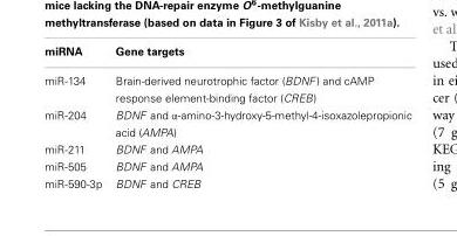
<table><thead><tr><td>miRNA</td><td>Gene targets</td></tr></thead><tbody><tr><td>miR-134</td><td>Brain-derived neurotrophic factor (BDNF) and cAMP response element-binding factor (CREB)</td></tr><tr><td>miR-204</td><td>BDNF and α-amino-3-hydroxy-5-methyl-4-isoxazolepropionic acid (AMPA)</td></tr><tr><td>miR-211</td><td>BDNF and AMPA</td></tr><tr><td>miR-505</td><td>BDNF and AMPA</td></tr><tr><td>miR-590-3p</td><td>BDNF and CREB</td></tr></tbody></table>